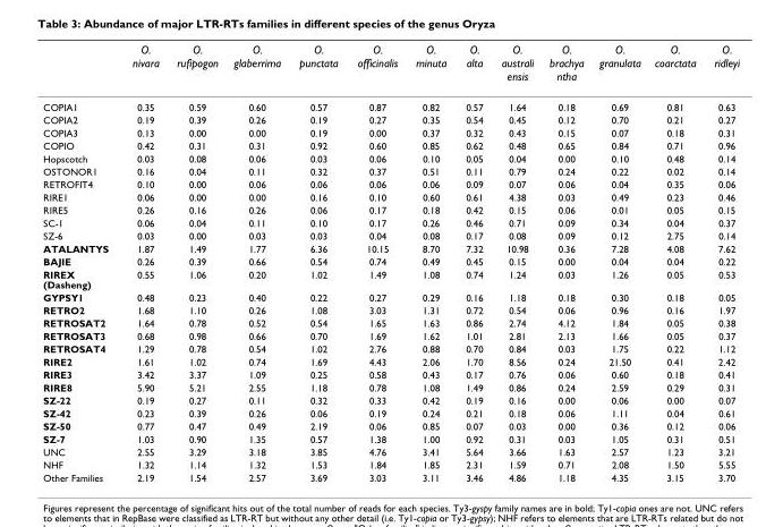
<table><thead><tr><td></td><td>O. nivara</td><td>O. rufipogon</td><td>O. glaberrima</td><td>O. punctata</td><td>O. officinalis</td><td>O. minuta</td><td>O. alta</td><td>O. australi ensis</td><td>O. brachya ntha</td><td>O. granulata</td><td>O. coarctata</td><td>O. ridleyi</td></tr></thead><tbody><tr><td>COPIA1</td><td>0.35</td><td>0.59</td><td>0.60</td><td>0.57</td><td>0.87</td><td>0.82</td><td>0.57</td><td>1.64</td><td>0.18</td><td>0.69</td><td>0.81</td><td>0.63</td></tr><tr><td>COPIA2</td><td>0.19</td><td>0.39</td><td>0.26</td><td>0.19</td><td>0.27</td><td>0.35</td><td>0.54</td><td>0.45</td><td>0.12</td><td>0.70</td><td>0.21</td><td>0.27</td></tr><tr><td>COPIA3</td><td>0.13</td><td>0.00</td><td>0.00</td><td>0.19</td><td>0.00</td><td>0.37</td><td>0.32</td><td>0.43</td><td>0.15</td><td>0.07</td><td>0.18</td><td>0.31</td></tr><tr><td>COPIO</td><td>0.42</td><td>0.31</td><td>0.31</td><td>0.92</td><td>0.60</td><td>0.85</td><td>0.62</td><td>0.48</td><td>0.65</td><td>0.84</td><td>0.71</td><td>0.96</td></tr><tr><td>Hopscotch</td><td>0.03</td><td>0.08</td><td>0.06</td><td>0.03</td><td>0.06</td><td>0.10</td><td>0.05</td><td>0.04</td><td>0.00</td><td>0.10</td><td>0.48</td><td>0.14</td></tr><tr><td>OSTONOR1</td><td>0.16</td><td>0.04</td><td>0.11</td><td>0.32</td><td>0.37</td><td>0.51</td><td>0.11</td><td>0.79</td><td>0.24</td><td>0.22</td><td>0.02</td><td>0.14</td></tr><tr><td>RETROFIT4</td><td>0.10</td><td>0.00</td><td>0.06</td><td>0.06</td><td>0.06</td><td>0.06</td><td>0.09</td><td>0.07</td><td>0.06</td><td>0.04</td><td>0.35</td><td>0.06</td></tr><tr><td>RIRE1</td><td>0.06</td><td>0.00</td><td>0.00</td><td>0.16</td><td>0.10</td><td>0.60</td><td>0.61</td><td>4.38</td><td>0.03</td><td>0.49</td><td>0.23</td><td>0.46</td></tr><tr><td>RIRE5</td><td>0.26</td><td>0.16</td><td>0.26</td><td>0.06</td><td>0.17</td><td>0.18</td><td>0.42</td><td>0.15</td><td>0.06</td><td>0.01</td><td>0.05</td><td>0.15</td></tr><tr><td>SC-1</td><td>0.06</td><td>0.04</td><td>0.11</td><td>0.10</td><td>0.17</td><td>0.26</td><td>0.46</td><td>0.71</td><td>0.09</td><td>0.34</td><td>0.04</td><td>0.37</td></tr><tr><td>SZ-6</td><td>0.03</td><td>0.00</td><td>0.03</td><td>0.03</td><td>0.04</td><td>0.08</td><td>0.17</td><td>0.08</td><td>0.09</td><td>0.12</td><td>2.75</td><td>0.14</td></tr><tr><td>ATALANTYS</td><td>1.87</td><td>1.49</td><td>1.77</td><td>6.36</td><td>10.15</td><td>8.70</td><td>7.32</td><td>10.98</td><td>0.36</td><td>7.28</td><td>4.08</td><td>7.62</td></tr><tr><td>BAJIE</td><td>0.26</td><td>0.39</td><td>0.66</td><td>0.54</td><td>0.74</td><td>0.49</td><td>0.45</td><td>0.15</td><td>0.00</td><td>0.04</td><td>0.04</td><td>0.22</td></tr><tr><td>RIREX (Dasheng)</td><td>0.55</td><td>1.06</td><td>0.20</td><td>1.02</td><td>1.49</td><td>1.08</td><td>0.74</td><td>1.24</td><td>0.03</td><td>1.26</td><td>0.05</td><td>0.53</td></tr><tr><td>GYPSY1</td><td>0.48</td><td>0.23</td><td>0.40</td><td>0.22</td><td>0.27</td><td>0.29</td><td>0.16</td><td>1.18</td><td>0.18</td><td>0.30</td><td>0.18</td><td>0.05</td></tr><tr><td>RETRO2</td><td>1.68</td><td>1.10</td><td>0.26</td><td>1.08</td><td>3.03</td><td>1.31</td><td>0.72</td><td>0.54</td><td>0.06</td><td>0.96</td><td>0.16</td><td>1.97</td></tr><tr><td>RETROSAT2</td><td>1.64</td><td>0.78</td><td>0.52</td><td>0.54</td><td>1.65</td><td>1.63</td><td>0.86</td><td>2.74</td><td>4.12</td><td>1.84</td><td>0.05</td><td>0.38</td></tr><tr><td>RETROSAT3</td><td>0.68</td><td>0.98</td><td>0.66</td><td>0.70</td><td>1.69</td><td>1.62</td><td>1.01</td><td>2.81</td><td>2.13</td><td>1.66</td><td>0.05</td><td>0.37</td></tr><tr><td>RETROSAT4</td><td>1.29</td><td>0.78</td><td>0.54</td><td>1.02</td><td>2.76</td><td>0.88</td><td>0.70</td><td>0.84</td><td>0.03</td><td>1.75</td><td>0.22</td><td>1.12</td></tr><tr><td>RIRE2</td><td>1.61</td><td>1.02</td><td>0.74</td><td>1.69</td><td>4.43</td><td>2.06</td><td>1.70</td><td>8.56</td><td>0.24</td><td>21.50</td><td>0.41</td><td>2.42</td></tr><tr><td>RIRE3</td><td>3.42</td><td>3.37</td><td>1.09</td><td>0.25</td><td>0.58</td><td>0.43</td><td>0.17</td><td>0.76</td><td>0.06</td><td>0.60</td><td>0.18</td><td>0.41</td></tr><tr><td>RIRE8</td><td>5.90</td><td>5.21</td><td>2.55</td><td>1.18</td><td>0.78</td><td>1.08</td><td>1.49</td><td>0.86</td><td>0.24</td><td>2.59</td><td>0.29</td><td>0.31</td></tr><tr><td>SZ-22</td><td>0.19</td><td>0.27</td><td>0.11</td><td>0.32</td><td>0.33</td><td>0.42</td><td>0.19</td><td>0.16</td><td>0.00</td><td>0.06</td><td>0.00</td><td>0.07</td></tr><tr><td>SZ-42</td><td>0.23</td><td>0.39</td><td>0.26</td><td>0.06</td><td>0.19</td><td>0.24</td><td>0.21</td><td>0.18</td><td>0.06</td><td>1.11</td><td>0.04</td><td>0.61</td></tr><tr><td>SZ-50</td><td>0.77</td><td>0.47</td><td>0.49</td><td>2.19</td><td>0.06</td><td>0.85</td><td>0.07</td><td>0.03</td><td>0.00</td><td>0.36</td><td>0.12</td><td>0.06</td></tr><tr><td>SZ-7</td><td>1.03</td><td>0.90</td><td>1.35</td><td>0.57</td><td>1.38</td><td>1.00</td><td>0.92</td><td>0.31</td><td>0.03</td><td>1.05</td><td>0.31</td><td>0.51</td></tr><tr><td>UNC</td><td>2.55</td><td>3.29</td><td>3.18</td><td>3.85</td><td>4.76</td><td>3.41</td><td>5.64</td><td>3.66</td><td>1.63</td><td>2.57</td><td>1.23</td><td>3.21</td></tr><tr><td>NHF</td><td>1.32</td><td>1.14</td><td>1.32</td><td>1.53</td><td>1.84</td><td>1.85</td><td>2.31</td><td>1.59</td><td>0.71</td><td>2.08</td><td>1.50</td><td>5.55</td></tr><tr><td>Other Families</td><td>2.19</td><td>1.54</td><td>2.57</td><td>3.69</td><td>3.03</td><td>3.11</td><td>3.46</td><td>4.86</td><td>1.18</td><td>4.35</td><td>3.15</td><td>3.70</td></tr></tbody></table>